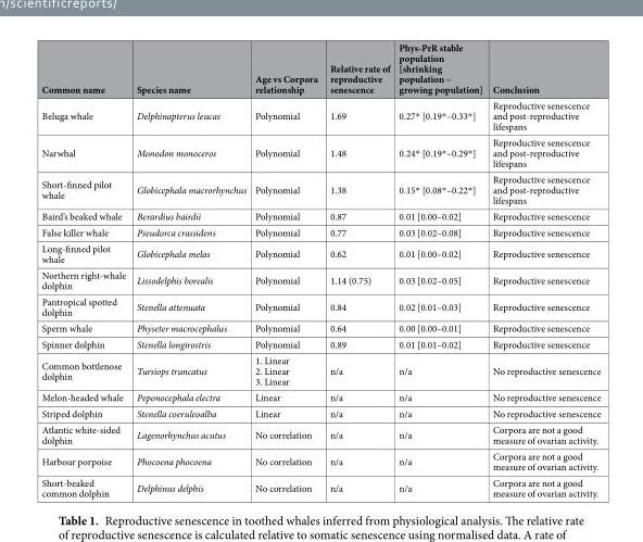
<table><thead><tr><td>Common name</td><td>Species name</td><td>Age vs Corpora relationship</td><td>Relative rate of reproductive senescence</td><td>Phys-PrR stable population [shrinking population – growing population]</td><td>Conclusion</td></tr></thead><tbody><tr><td>Beluga whale</td><td>Delphinapterus leucas</td><td>Polynomial</td><td>1.69</td><td>0.27* [0.19*–0.33*]</td><td>Reproductive senescence and post-reproductive lifespans</td></tr><tr><td>Narwhal</td><td>Monodon monoceros</td><td>Polynomial</td><td>1.48</td><td>0.24* [0.19*–0.29*]</td><td>Reproductive senescence and post-reproductive lifespans</td></tr><tr><td>Short-finned pilot whale</td><td>Globicephala macrorhynchus</td><td>Polynomial</td><td>1.38</td><td>0.15* [0.08*–0.22*]</td><td>Reproductive senescence and post-reproductive lifespans</td></tr><tr><td>Baird’s beaked whale</td><td>Berardius bairdii</td><td>Polynomial</td><td>0.87</td><td>0.01 [0.00–0.02]</td><td>Reproductive senescence</td></tr><tr><td>False killer whale</td><td>Pseudorca crassidens</td><td>Polynomial</td><td>0.77</td><td>0.03 [0.02–0.08]</td><td>Reproductive senescence</td></tr><tr><td>Long-finned pilot whale</td><td>Globicephala melas</td><td>Polynomial</td><td>0.62</td><td>0.01 [0.00–0.02]</td><td>Reproductive senescence</td></tr><tr><td>Northern right-whale dolphin</td><td>Lissodelphis borealis</td><td>Polynomial</td><td>1.14 (0.75)</td><td>0.03 [0.02–0.05]</td><td>Reproductive senescence</td></tr><tr><td>Pantropical spotted dolphin</td><td>Stenella attenuata</td><td>Polynomial</td><td>0.84</td><td>0.02 [0.01–0.03]</td><td>Reproductive senescence</td></tr><tr><td>Sperm whale</td><td>Physeter macrocephalus</td><td>Polynomial</td><td>0.64</td><td>0.00 [0.00–0.01]</td><td>Reproductive senescence</td></tr><tr><td>Spinner dolphin</td><td>Stenella longirostris</td><td>Polynomial</td><td>0.89</td><td>0.01 [0.01–0.02]</td><td>Reproductive senescence</td></tr><tr><td>Common bottlenose dolphin</td><td>Tursiops truncatus</td><td>1. Linear 2. Linear 3. Linear</td><td>n/a</td><td>n/a</td><td>No reproductive senescence</td></tr><tr><td>Melon-headed whale</td><td>Peponocephala electra</td><td>Linear</td><td>n/a</td><td>n/a</td><td>No reproductive senescence</td></tr><tr><td>Striped dolphin</td><td>Stenella coeruleoalba</td><td>Linear</td><td>n/a</td><td>n/a</td><td>No reproductive senescence</td></tr><tr><td>Atlantic white-sided dolphin</td><td>Lagenorhynchus acutus</td><td>No correlation</td><td>n/a</td><td>n/a</td><td>Corpora are not a good measure of ovarian activity.</td></tr><tr><td>Harbour porpoise</td><td>Phocoena phocoena</td><td>No correlation</td><td>n/a</td><td>n/a</td><td>Corpora are not a good measure of ovarian activity.</td></tr><tr><td>Short-beaked common dolphin</td><td>Delphinus delphis</td><td>No correlation</td><td>n/a</td><td>n/a</td><td>Corpora are not a good measure of ovarian activity.</td></tr></tbody></table>